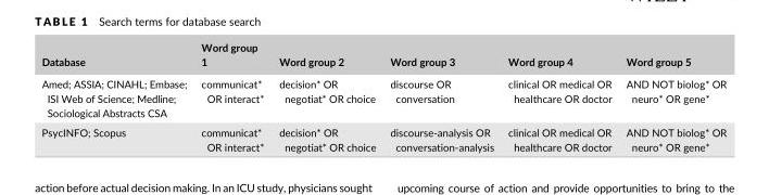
<table><thead><tr><td>Database</td><td>Word group 1</td><td>Word group 2</td><td>Word group 3</td><td>Word group 4</td><td>Word group 5</td></tr></thead><tbody><tr><td>Amed; ASSIA; CINAHL; Embase; ISI Web of Science; Medline; Sociological Abstracts CSA</td><td>communicat* OR interact*</td><td>decision* OR negotiat* OR choice</td><td>discourse OR conversation</td><td>clinical OR medical OR healthcare OR doctor</td><td>AND NOT biolog* OR neuro* OR gene*</td></tr><tr><td>PsycINFO; Scopus</td><td>communicat* OR interact*</td><td>decision* OR negotiat* OR choice</td><td>discourse- analysis OR conversation- analysis</td><td>clinical OR medical OR healthcare OR doctor</td><td>AND NOT biolog* OR neuro* OR gene*</td></tr></tbody></table>